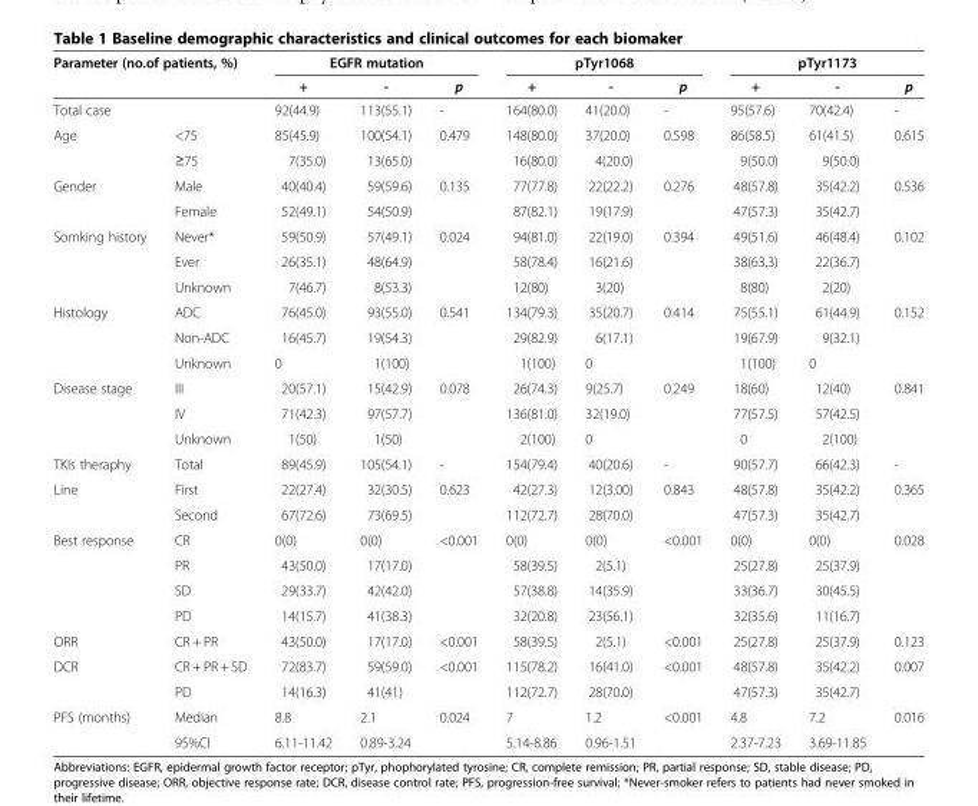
<table><thead><tr><td colspan="2">Parameter (no.of patients, %)</td><td colspan="3">EGFR mutation</td><td colspan="3">pTyr1068</td><td colspan="3">pTyr1173</td></tr><tr><td></td><td></td><td>+</td><td>-</td><td>p</td><td>+</td><td>-</td><td>p</td><td>+</td><td>-</td><td>p</td></tr></thead><tbody><tr><td colspan="2">Total case</td><td>92(44.9)</td><td>113(55.1)</td><td>-</td><td>164(80.0)</td><td>41(20.0)</td><td>-</td><td>95(57.6)</td><td>70(42.4)</td><td>-</td></tr><tr><td rowspan="2">Age</td><td>&lt;75</td><td>85(45.9)</td><td>100(54.1)</td><td>0.479</td><td>148(80.0)</td><td>37(20.0)</td><td>0.598</td><td>86(58.5)</td><td>61(41.5)</td><td>0.615</td></tr><tr><td>≥75</td><td>7(35.0)</td><td>13(65.0)</td><td></td><td>16(80.0)</td><td>4(20.0)</td><td></td><td>9(50.0)</td><td>9(50.0)</td><td></td></tr><tr><td rowspan="2">Gender</td><td>Male</td><td>40(40.4)</td><td>59(59.6)</td><td>0.135</td><td>77(77.8)</td><td>22(22.2)</td><td>0.276</td><td>48(57.8)</td><td>35(42.2)</td><td>0.536</td></tr><tr><td>Female</td><td>52(49.1)</td><td>54(50.9)</td><td></td><td>87(82.1)</td><td>19(17.9)</td><td></td><td>47(57.3)</td><td>35(42.7)</td><td></td></tr><tr><td rowspan="3">Somking history</td><td>Never*</td><td>59(50.9)</td><td>57(49.1)</td><td>0.024</td><td>94(81.0)</td><td>22(19.0)</td><td>0.394</td><td>49(51.6)</td><td>46(48.4)</td><td>0.102</td></tr><tr><td>Ever</td><td>26(35.1)</td><td>48(64.9)</td><td></td><td>58(78.4)</td><td>16(21.6)</td><td></td><td>38(63.3)</td><td>22(36.7)</td><td></td></tr><tr><td>Unknown</td><td>7(46.7)</td><td>8(53.3)</td><td></td><td>12(80)</td><td>3(20)</td><td></td><td>8(80)</td><td>2(20)</td><td></td></tr><tr><td rowspan="3">Histology</td><td>ADC</td><td>76(45.0)</td><td>93(55.0)</td><td>0.541</td><td>134(79.3)</td><td>35(20.7)</td><td>0.414</td><td>75(55.1)</td><td>61(44.9)</td><td>0.152</td></tr><tr><td>Non-ADC</td><td>16(45.7)</td><td>19(54.3)</td><td></td><td>29(82.9)</td><td>6(17.1)</td><td></td><td>19(67.9)</td><td>9(32.1)</td><td></td></tr><tr><td>Unknown</td><td>0</td><td>1(100)</td><td></td><td>1(100)</td><td>0</td><td></td><td>1(100)</td><td>0</td><td></td></tr><tr><td rowspan="3">Disease stage</td><td>III</td><td>20(57.1)</td><td>15(42.9)</td><td>0.078</td><td>26(74.3)</td><td>9(25.7)</td><td>0.249</td><td>18(60)</td><td>12(40)</td><td>0.841</td></tr><tr><td>IV</td><td>71(42.3)</td><td>97(57.7)</td><td></td><td>136(81.0)</td><td>32(19.0)</td><td></td><td>77(57.5)</td><td>57(42.5)</td><td></td></tr><tr><td>Unknown</td><td>1(50)</td><td>1(50)</td><td></td><td>2(100)</td><td>0</td><td></td><td>0</td><td>2(100)</td><td></td></tr><tr><td>TKIs theraphy</td><td>Total</td><td>89(45.9)</td><td>105(54.1)</td><td>-</td><td>154(79.4)</td><td>40(20.6)</td><td>-</td><td>90(57.7)</td><td>66(42.3)</td><td>-</td></tr><tr><td rowspan="2">Line</td><td>First</td><td>22(27.4)</td><td>32(30.5)</td><td>0.623</td><td>42(27.3)</td><td>12(3.00)</td><td>0.843</td><td>48(57.8)</td><td>35(42.2)</td><td>0.365</td></tr><tr><td>Second</td><td>67(72.6)</td><td>73(69.5)</td><td></td><td>112(72.7)</td><td>28(70.0)</td><td></td><td>47(57.3)</td><td>35(42.7)</td><td></td></tr><tr><td rowspan="4">Best response</td><td>CR</td><td>0(0)</td><td>0(0)</td><td>&lt;0.001</td><td>0(0)</td><td>0(0)</td><td>&lt;0.001</td><td>0(0)</td><td>0(0)</td><td>0.028</td></tr><tr><td>PR</td><td>43(50.0)</td><td>17(17.0)</td><td></td><td>58(39.5)</td><td>2(5.1)</td><td></td><td>25(27.8)</td><td>25(37.9)</td><td></td></tr><tr><td>SD</td><td>29(33.7)</td><td>42(42.0)</td><td></td><td>57(38.8)</td><td>14(35.9)</td><td></td><td>33(36.7)</td><td>30(45.5)</td><td></td></tr><tr><td>PD</td><td>14(15.7)</td><td>41(38.3)</td><td></td><td>32(20.8)</td><td>23(56.1)</td><td></td><td>32(35.6)</td><td>11(16.7)</td><td></td></tr><tr><td>ORR</td><td>CR + PR</td><td>43(50.0)</td><td>17(17.0)</td><td>&lt;0.001</td><td>58(39.5)</td><td>2(5.1)</td><td>&lt;0.001</td><td>25(27.8)</td><td>25(37.9)</td><td>0.123</td></tr><tr><td rowspan="2">DCR</td><td>CR + PR + SD</td><td>72(83.7)</td><td>59(59.0)</td><td>&lt;0.001</td><td>115(78.2)</td><td>16(41.0)</td><td>&lt;0.001</td><td>48(57.8)</td><td>35(42.2)</td><td>0.007</td></tr><tr><td>PD</td><td>14(16.3)</td><td>41(41)</td><td></td><td>112(72.7)</td><td>28(70.0)</td><td></td><td>47(57.3)</td><td>35(42.7)</td><td></td></tr><tr><td rowspan="2">PFS (months)</td><td>Median</td><td>8.8</td><td>2.1</td><td>0.024</td><td>7</td><td>1.2</td><td>&lt;0.001</td><td>4.8</td><td>7.2</td><td>0.016</td></tr><tr><td>95%CI</td><td>6.11-11.42</td><td>0.89-3.24</td><td></td><td>5.14-8.86</td><td>0.96-1.51</td><td></td><td>2.37-7.23</td><td>3.69-11.85</td><td></td></tr></tbody></table>